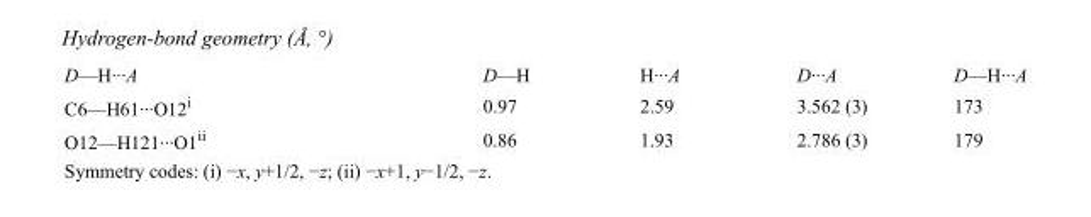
<table><tbody><tr><td>D—H···A</td><td>D—H</td><td>H···A</td><td>D···A</td><td>D—H···A</td></tr><tr><td>C6—H61···O12<sup>i</sup></td><td>0.97</td><td>2.59</td><td>3.562 (3)</td><td>173</td></tr><tr><td>O12—H121···O1<sup>ii</sup></td><td>0.86</td><td>1.93</td><td>2.786 (3)</td><td>179</td></tr></tbody></table>